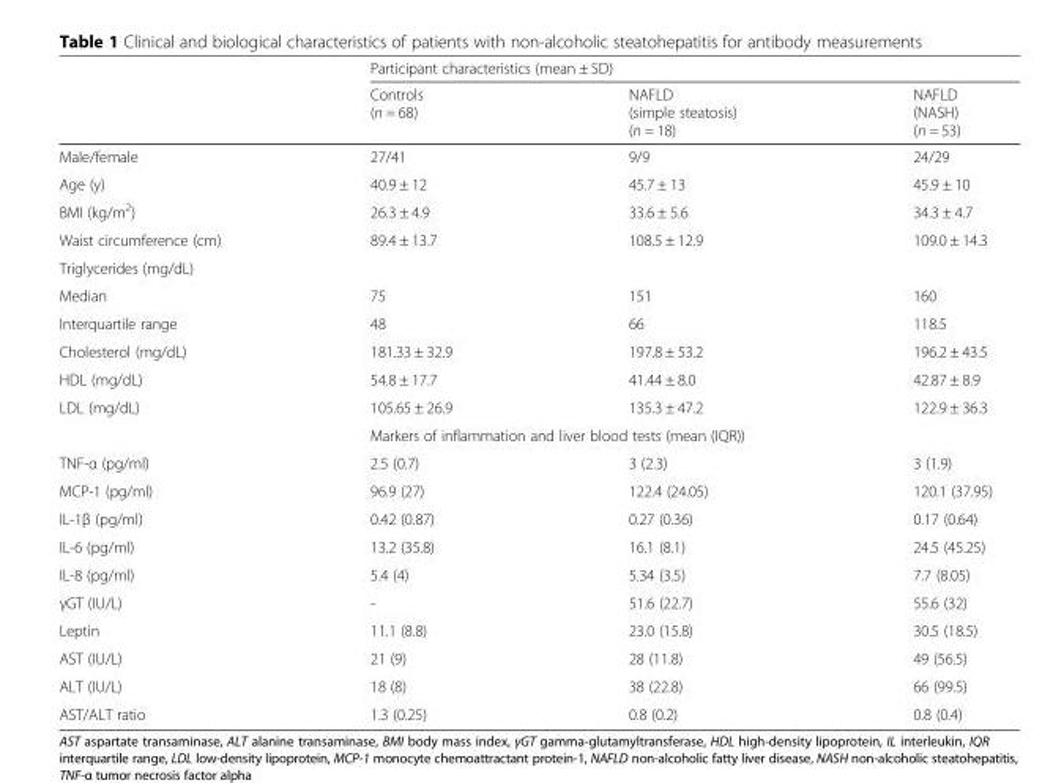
<table><thead><tr><td rowspan="2"></td><td colspan="3">Participant characteristics (mean ± SD)</td></tr><tr><td>Controls (n = 68)</td><td>NAFLD (simple steatosis) (n = 18)</td><td>NAFLD (NASH) (n = 53)</td></tr></thead><tbody><tr><td>Male/female</td><td>27/41</td><td>9/9</td><td>24/29</td></tr><tr><td>Age (y)</td><td>40.9 ± 12</td><td>45.7 ± 13</td><td>45.9 ± 10</td></tr><tr><td>BMI (kg/m<sup>2</sup>)</td><td>26.3 ± 4.9</td><td>33.6 ± 5.6</td><td>34.3 ± 4.7</td></tr><tr><td>Waist circumference (cm)</td><td>89.4 ± 13.7</td><td>108.5 ± 12.9</td><td>109.0 ± 14.3</td></tr><tr><td colspan="4">Triglycerides (mg/dL)</td></tr><tr><td>Median</td><td>75</td><td>151</td><td>160</td></tr><tr><td>Interquartile range</td><td>48</td><td>66</td><td>118.5</td></tr><tr><td>Cholesterol (mg/dL)</td><td>181.33 ± 32.9</td><td>197.8 ± 53.2</td><td>196.2 ± 43.5</td></tr><tr><td>HDL (mg/dL)</td><td>54.8 ± 17.7</td><td>41.44 ± 8.0</td><td>42.87 ± 8.9</td></tr><tr><td rowspan="2">LDL (mg/dL)</td><td>105.65 ± 26.9</td><td>135.3 ± 47.2</td><td>122.9 ± 36.3</td></tr><tr><td colspan="3">Markers of inflammation and liver blood tests (mean (IQR))</td></tr><tr><td>TNF-α (pg/ml)</td><td>2.5 (0.7)</td><td>3 (2.3)</td><td>3 (1.9)</td></tr><tr><td>MCP-1 (pg/ml)</td><td>96.9 (27)</td><td>122.4 (24.05)</td><td>120.1 (37.95)</td></tr><tr><td>IL-1β (pg/ml)</td><td>0.42 (0.87)</td><td>0.27 (0.36)</td><td>0.17 (0.64)</td></tr><tr><td>IL-6 (pg/ml)</td><td>13.2 (35.8)</td><td>16.1 (8.1)</td><td>24.5 (45.25)</td></tr><tr><td>IL-8 (pg/ml)</td><td>5.4 (4)</td><td>5.34 (3.5)</td><td>7.7 (8.05)</td></tr><tr><td>γGT (IU/L)</td><td>-</td><td>51.6 (22.7)</td><td>55.6 (32)</td></tr><tr><td>Leptin</td><td>11.1 (8.8)</td><td>23.0 (15.8)</td><td>30.5 (18.5)</td></tr><tr><td>AST (IU/L)</td><td>21 (9)</td><td>28 (11.8)</td><td>49 (56.5)</td></tr><tr><td>ALT (IU/L)</td><td>18 (8)</td><td>38 (22.8)</td><td>66 (99.5)</td></tr><tr><td>AST/ALT ratio</td><td>1.3 (0.25)</td><td>0.8 (0.2)</td><td>0.8 (0.4)</td></tr></tbody></table>